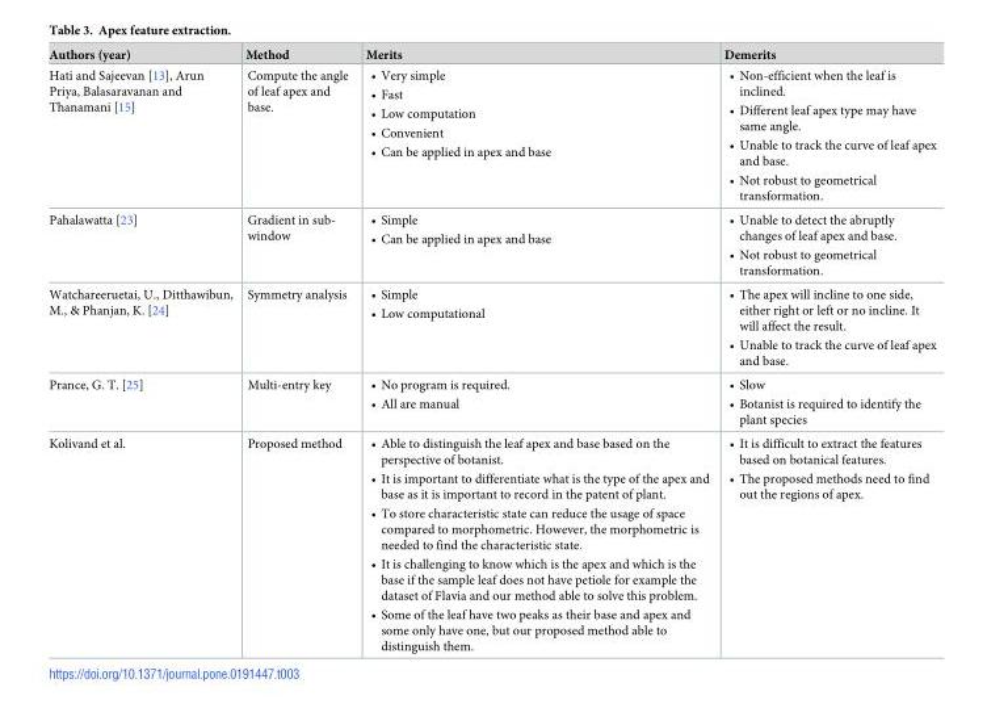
<table><thead><tr><td>Authors (year)</td><td>Method</td><td>Merits</td><td>Demerits</td></tr></thead><tbody><tr><td>Hati and Sajeevan [13], Arun Priya, Balasaravanan and Thanamani [15]</td><td>Compute the angle of leaf apex and base.</td><td>• Very simple • Fast • Low computation • Convenient • Can be applied in apex and base</td><td>• Non-efficient when the leaf is inclined. • Different leaf apex type may have same angle. • Unable to track the curve of leaf apex and base. • Not robust to geometrical transformation.</td></tr><tr><td>Pahalawatta [23]</td><td>Gradient in sub- window</td><td>• Simple • Can be applied in apex and base</td><td>• Unable to detect the abruptly changes of leaf apex and base. • Not robust to geometrical transformation.</td></tr><tr><td>Watchareeruetai, U., Ditthawibun, M., &amp; Phanjan, K. [24]</td><td>Symmetry analysis</td><td>• Simple • Low computational</td><td>• The apex will incline to one side, either right or left or no incline. It will affect the result. • Unable to track the curve of leaf apex and base.</td></tr><tr><td>Prance, G. T. [25]</td><td>Multi-entry key</td><td>• No program is required. • All are manual</td><td>• Slow • Botanist is required to identify the plant species</td></tr><tr><td>Kolivand et al.</td><td>Proposed method</td><td>• Able to distinguish the leaf apex and base based on the perspective of botanist. • It is important to differentiate what is the type of the apex and base as it is important to record in the patent of plant. • To store characteristic state can reduce the usage of space compared to morphometric. However, the morphometric is needed to find the characteristic state. • It is challenging to know which is the apex and which is the base if the sample leaf does not have petiole for example the dataset of Flavia and our method able to solve this problem. • Some of the leaf have two peaks as their base and apex and some only have one, but our proposed method able to distinguish them.</td><td>• It is difficult to extract the features based on botanical features. • The proposed methods need to find out the regions of apex.</td></tr></tbody></table>